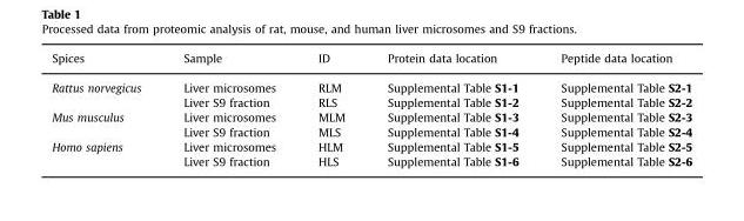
<table><thead><tr><td>Spices</td><td>Sample</td><td>ID</td><td>Protein data location</td><td>Peptide data location</td></tr></thead><tbody><tr><td rowspan="2">Rattus norvegicus</td><td>Liver microsomes</td><td>RLM</td><td>Supplemental Table S1-1</td><td>Supplemental Table S2-1</td></tr><tr><td>Liver S9 fraction</td><td>RLS</td><td>Supplemental Table S1-2</td><td>Supplemental Table S2-2</td></tr><tr><td rowspan="2">Mus musculus</td><td>Liver microsomes</td><td>MLM</td><td>Supplemental Table S1-3</td><td>Supplemental Table S2-3</td></tr><tr><td>Liver S9 fraction</td><td>MLS</td><td>Supplemental Table S1-4</td><td>Supplemental Table S2-4</td></tr><tr><td rowspan="2">Homo sapiens</td><td>Liver microsomes</td><td>HLM</td><td>Supplemental Table S1-5</td><td>Supplemental Table S2-5</td></tr><tr><td>Liver S9 fraction</td><td>HLS</td><td>Supplemental Table S1-6</td><td>Supplemental Table S2-6</td></tr></tbody></table>